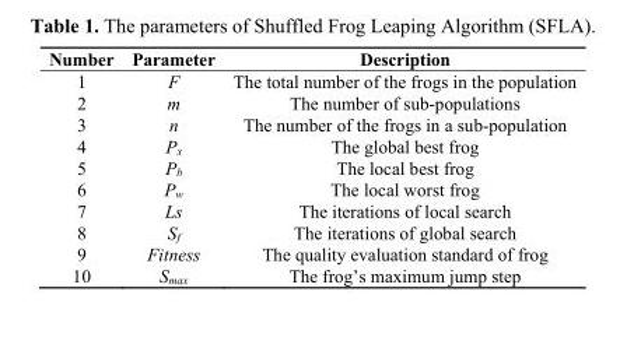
<table><thead><tr><td>Number</td><td>Parameter</td><td>Description</td></tr></thead><tbody><tr><td>1</td><td>F</td><td>The total number of the frogs in the population</td></tr><tr><td>2</td><td>m</td><td>The number of sub-populations</td></tr><tr><td>3</td><td>n</td><td>The number of the frogs in a sub-population</td></tr><tr><td>4</td><td>P<sub>x</sub></td><td>The global best frog</td></tr><tr><td>5</td><td>P<sub>b</sub></td><td>The local best frog</td></tr><tr><td>6</td><td>P<sub>w</sub></td><td>The local worst frog</td></tr><tr><td>7</td><td>Ls</td><td>The iterations of local search</td></tr><tr><td>8</td><td>S<sub>f</sub></td><td>The iterations of global search</td></tr><tr><td>9</td><td>Fitness</td><td>The quality evaluation standard of frog</td></tr><tr><td>10</td><td>S<sub>max</sub></td><td>The frog’s maximum jump step</td></tr></tbody></table>